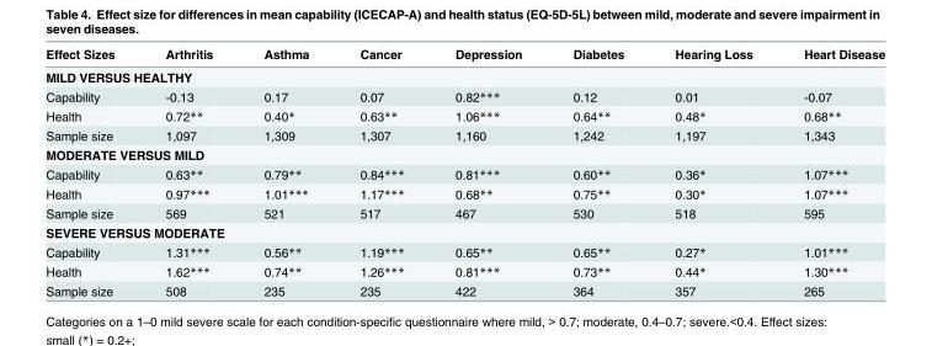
<table><thead><tr><td>Effect Sizes</td><td>Arthritis</td><td>Asthma</td><td>Cancer</td><td>Depression</td><td>Diabetes</td><td>Hearing Loss</td><td>Heart Disease</td></tr></thead><tbody><tr><td colspan="8">MILD VERSUS HEALTHY</td></tr><tr><td>Capability</td><td>-0.13</td><td>0.17</td><td>0.07</td><td>0.82***</td><td>0.12</td><td>0.01</td><td>-0.07</td></tr><tr><td>Health</td><td>0.72**</td><td>0.40*</td><td>0.63**</td><td>1.06***</td><td>0.64**</td><td>0.48*</td><td>0.68**</td></tr><tr><td>Sample size</td><td>1,097</td><td>1,309</td><td>1,307</td><td>1,160</td><td>1,242</td><td>1,197</td><td>1,343</td></tr><tr><td colspan="8">MODERATE VERSUS MILD</td></tr><tr><td>Capability</td><td>0.63**</td><td>0.79**</td><td>0.84***</td><td>0.81***</td><td>0.60**</td><td>0.36*</td><td>1.07***</td></tr><tr><td>Health</td><td>0.97***</td><td>1.01***</td><td>1.17***</td><td>0.68**</td><td>0.75**</td><td>0.30*</td><td>1.07***</td></tr><tr><td>Sample size</td><td>569</td><td>521</td><td>517</td><td>467</td><td>530</td><td>518</td><td>595</td></tr><tr><td colspan="8">SEVERE VERSUS MODERATE</td></tr><tr><td>Capability</td><td>1.31***</td><td>0.56**</td><td>1.19***</td><td>0.65**</td><td>0.65**</td><td>0.27*</td><td>1.01***</td></tr><tr><td>Health</td><td>1.62***</td><td>0.74**</td><td>1.26***</td><td>0.81***</td><td>0.73**</td><td>0.44*</td><td>1.30***</td></tr><tr><td>Sample size</td><td>508</td><td>235</td><td>235</td><td>422</td><td>364</td><td>357</td><td>265</td></tr></tbody></table>